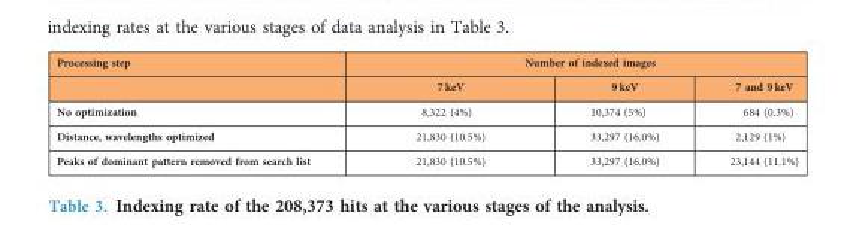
<table><thead><tr><td rowspan="2">Processing step</td><td colspan="3">Number of indexed images</td></tr><tr><td>7 keV</td><td>9 keV</td><td>7 and 9 keV</td></tr></thead><tbody><tr><td>No optimization</td><td>8,322 (4%)</td><td>10,374 (5%)</td><td>684 (0.3%)</td></tr><tr><td>Distance, wavelengths optimized</td><td>21,830 (10.5%)</td><td>33,297 (16.0%)</td><td>2,129 (1%)</td></tr><tr><td>Peaks of dominant pattern removed from search list</td><td>21,830 (10.5%)</td><td>33,297 (16.0%)</td><td>23,144 (11.1%)</td></tr></tbody></table>